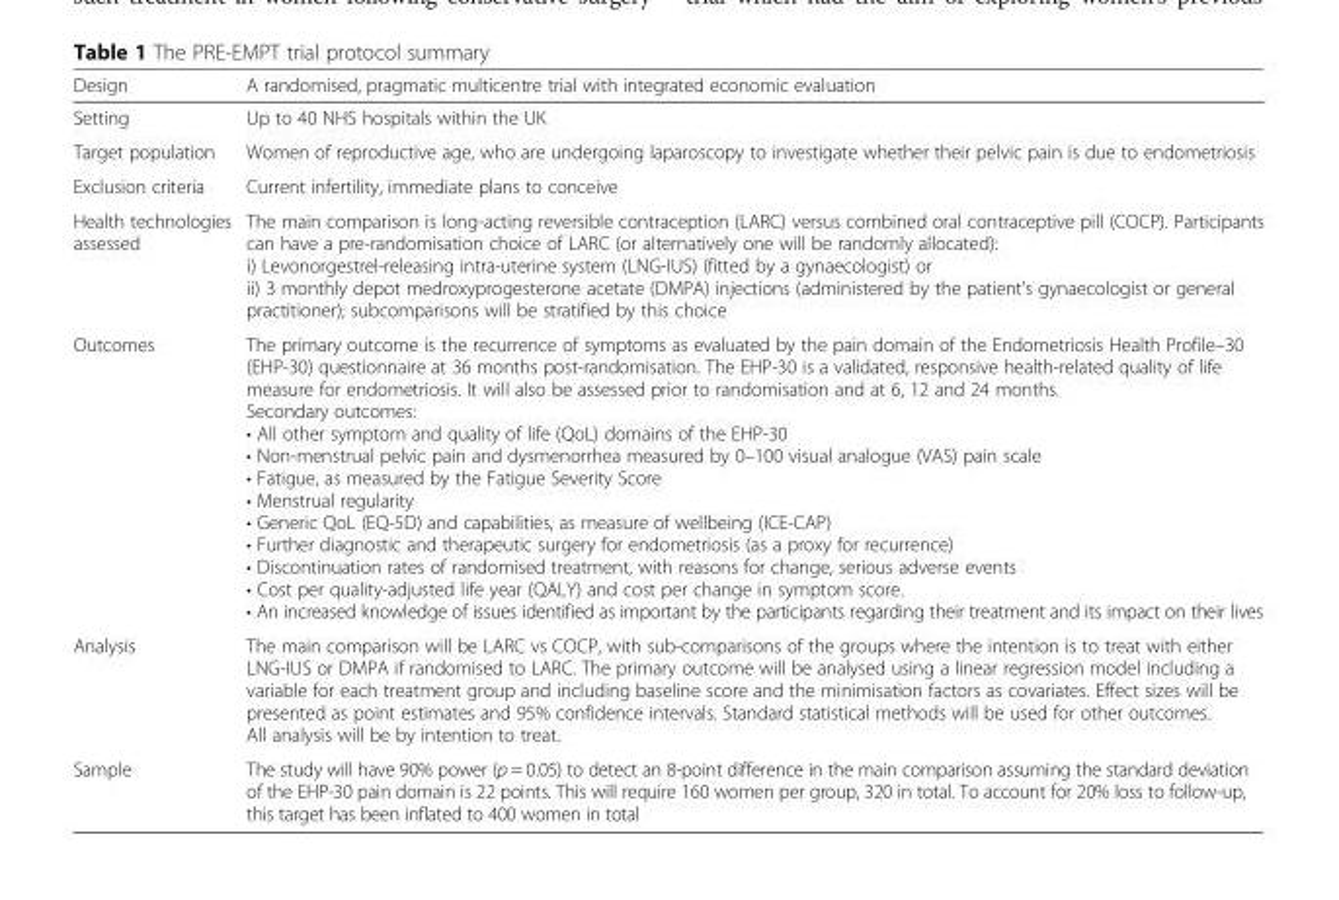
<table><thead><tr><td>Design</td><td>A randomised, pragmatic multicentre trial with integrated economic evaluation</td></tr></thead><tbody><tr><td>Setting</td><td>Up to 40 NHS hospitals within the UK</td></tr><tr><td>Target population</td><td>Women of reproductive age, who are undergoing laparoscopy to investigate whether their pelvic pain is due to endometriosis</td></tr><tr><td>Exclusion criteria</td><td>Current infertility, immediate plans to conceive</td></tr><tr><td>Health technologies assessed</td><td>The main comparison is long-acting reversible contraception (LARC) versus combined oral contraceptive pill (COCP). Participants can have a pre-randomisation choice of LARC (or alternatively one will be randomly allocated): i) Levonorgestrel-releasing intra-uterine system (LNG-IUS) (fitted by a gynaecologist) or ii) 3 monthly depot medroxyprogesterone acetate (DMPA) injections (administered by the patient’s gynaecologist or general practitioner); subcomparisons will be stratified by this choice</td></tr><tr><td>Outcomes</td><td>The primary outcome is the recurrence of symptoms as evaluated by the pain domain of the Endometriosis Health Profile–30 (EHP-30) questionnaire at 36 months post-randomisation. The EHP-30 is a validated, responsive health-related quality of life measure for endometriosis. It will also be assessed prior to randomisation and at 6, 12 and 24 months. Secondary outcomes: • All other symptom and quality of life (QoL) domains of the EHP-30 • Non-menstrual pelvic pain and dysmenorrhea measured by 0–100 visual analogue (VAS) pain scale • Fatigue, as measured by the Fatigue Severity Score • Menstrual regularity • Generic QoL (EQ-5D) and capabilities, as measure of wellbeing (ICE-CAP) • Further diagnostic and therapeutic surgery for endometriosis (as a proxy for recurrence) • Discontinuation rates of randomised treatment, with reasons for change, serious adverse events • Cost per quality-adjusted life year (QALY) and cost per change in symptom score. • An increased knowledge of issues identified as important by the participants regarding their treatment and its impact on their lives</td></tr><tr><td>Analysis</td><td>The main comparison will be LARC vs COCP, with sub-comparisons of the groups where the intention is to treat with either LNG-IUS or DMPA if randomised to LARC. The primary outcome will be analysed using a linear regression model including a variable for each treatment group and including baseline score and the minimisation factors as covariates. Effect sizes will be presented as point estimates and 95% confidence intervals. Standard statistical methods will be used for other outcomes. All analysis will be by intention to treat.</td></tr><tr><td>Sample</td><td>The study will have 90% power (p = 0.05) to detect an 8-point difference in the main comparison assuming the standard deviation of the EHP-30 pain domain is 22 points. This will require 160 women per group, 320 in total. To account for 20% loss to follow-up, this target has been inflated to 400 women in total</td></tr></tbody></table>